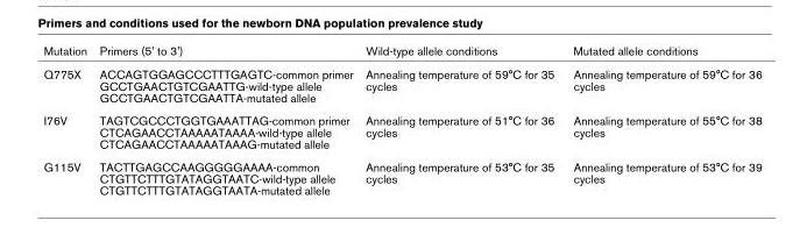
<table><thead><tr><td>Mutation</td><td>Primers (5&#x27; to 3&#x27;)</td><td>Wild-type allele conditions</td><td>Mutated allele conditions</td></tr></thead><tbody><tr><td>Q775X</td><td>ACCAGTGGAGCCCTTTGAGTC-common primer GCCTGAACTGTCGAATTG-wild-type allele GCCTGAACTGTCGAATTA-mutated allele</td><td>Annealing temperature of 59°C for 35 cycles</td><td>Annealing temperature of 59°C for 36 cycles</td></tr><tr><td>I76V</td><td>TAGTCGCCCTGGTGAAATTAG-common primer CTCAGAACCTAAAAATAAAA-wild-type allele CTCAGAACCTAAAAATAAAG-mutated allele</td><td>Annealing temperature of 51°C for 36 cycles</td><td>Annealing temperature of 55°C for 38 cycles</td></tr><tr><td>G115V</td><td>TACTTGAGCCAAGGGGGAAAA-common CTGTTCTTTGTATAGGTAATC-wild-type allele CTGTTCTTTGTATAGGTAATA-mutated allele</td><td>Annealing temperature of 53°C for 35 cycles</td><td>Annealing temperature of 53°C for 39 cycles</td></tr></tbody></table>